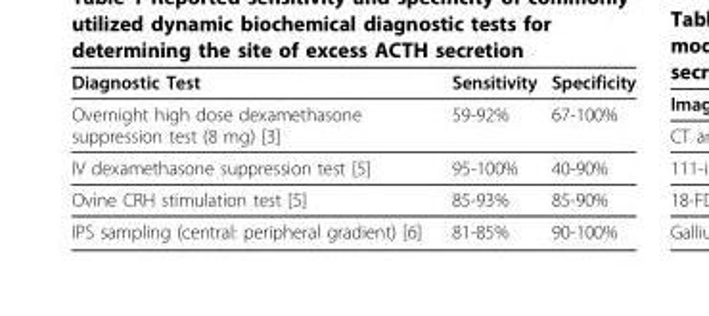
<table><thead><tr><td>Diagnostic Test</td><td>Sensitivity</td><td>Specificity</td></tr></thead><tbody><tr><td>Overnight high dose dexamethasone suppression test (8 mg) [3]</td><td>59-92%</td><td>67-100%</td></tr><tr><td>IV dexamethasone suppression test [5]</td><td>95-100%</td><td>40-90%</td></tr><tr><td>Ovine CRH stimulation test [5]</td><td>85-93%</td><td>85-90%</td></tr><tr><td>IPS sampling (central: peripheral gradient) [6]</td><td>81-85%</td><td>90-100%</td></tr></tbody></table>